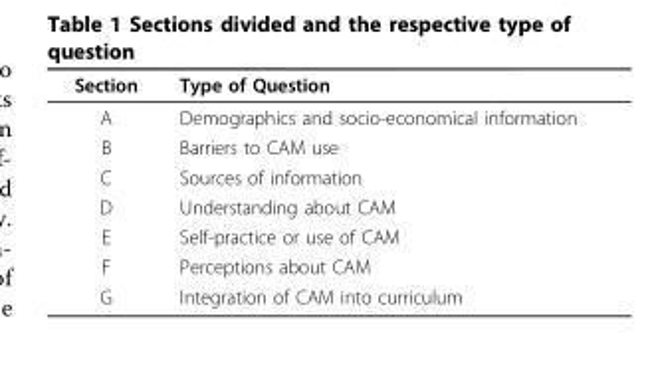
<table><thead><tr><td>Section</td><td>Type of Question</td></tr></thead><tbody><tr><td>A</td><td>Demographics and socio-economical information</td></tr><tr><td>B</td><td>Barriers to CAM use</td></tr><tr><td>C</td><td>Sources of information</td></tr><tr><td>D</td><td>Understanding about CAM</td></tr><tr><td>E</td><td>Self-practice or use of CAM</td></tr><tr><td>F</td><td>Perceptions about CAM</td></tr><tr><td>G</td><td>Integration of CAM into curriculum</td></tr></tbody></table>